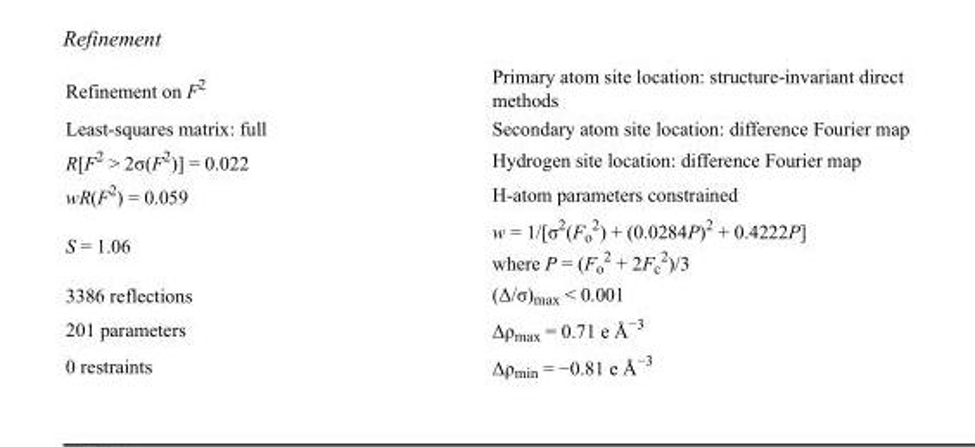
<table><tbody><tr><td>Refinement on F<sup>2</sup></td><td>Primary atom site location: structure-invariant direct methods</td></tr><tr><td>Least-squares matrix: full</td><td>Secondary atom site location: difference Fourier map</td></tr><tr><td>R[F<sup>2</sup> &gt; 2σ(F<sup>2</sup>)] = 0.022</td><td>Hydrogen site location: difference Fourier map</td></tr><tr><td>wR(F<sup>2</sup>) = 0.059</td><td>H-atom parameters constrained</td></tr><tr><td>S = 1.06</td><td>w = 1/[σ<sup>2</sup>(F<sub>o</sub> <sup>2</sup>) + (0.0284P)<sup>2</sup> + 0.4222P] where P = (F<sub>o</sub> <sup>2</sup> + 2F<sub>c</sub> <sup>2</sup>)/3</td></tr><tr><td>3386 reflections</td><td>(Δ/σ)<sub>max</sub> &lt; 0.001</td></tr><tr><td>201 parameters</td><td>Δρ<sub>max</sub> = 0.71 e Å<sup>−3</sup></td></tr><tr><td>0 restraints</td><td>Δρ<sub>min</sub> = −0.81 e Å<sup>−3</sup></td></tr></tbody></table>